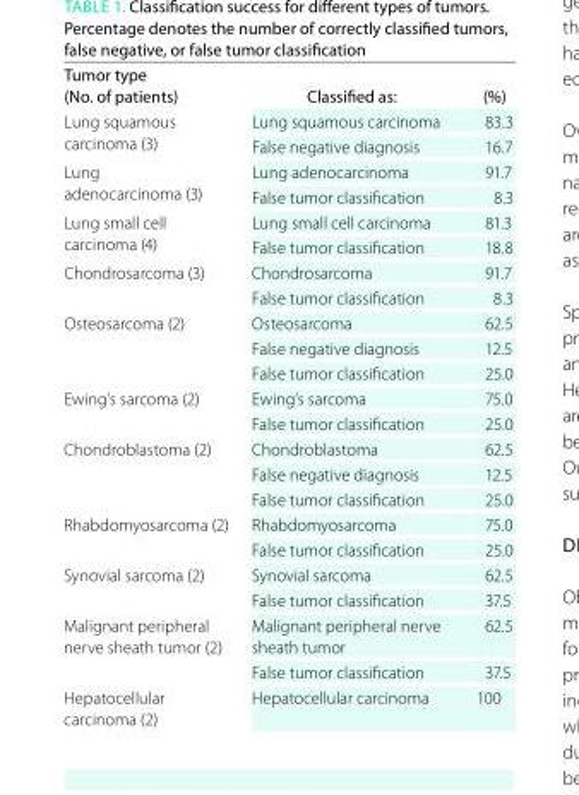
<table><thead><tr><td>tumor type (no. of patients)</td><td>classified as:</td><td>(%)</td></tr></thead><tbody><tr><td rowspan="2">Lung squamous carcinoma (3)</td><td>Lung squamous carcinoma</td><td>83.3</td></tr><tr><td>False negative diagnosis</td><td>16.7</td></tr><tr><td rowspan="2">Lung adenocarcinoma (3)</td><td>Lung adenocarcinoma</td><td>91.7</td></tr><tr><td>False tumor classification</td><td>8.3</td></tr><tr><td rowspan="2">Lung small cell carcinoma (4)</td><td>Lung small cell carcinoma</td><td>81.3</td></tr><tr><td>False tumor classification</td><td>18.8</td></tr><tr><td rowspan="2">Chondrosarcoma (3)</td><td>Chondrosarcoma</td><td>91.7</td></tr><tr><td>False tumor classification</td><td>8.3</td></tr><tr><td rowspan="3">Osteosarcoma (2)</td><td>Osteosarcoma</td><td>62.5</td></tr><tr><td>False negative diagnosis</td><td>12.5</td></tr><tr><td>False tumor classification</td><td>25.0</td></tr><tr><td rowspan="2">Ewing’s sarcoma (2)</td><td>Ewing’s sarcoma</td><td>75.0</td></tr><tr><td>False tumor classification</td><td>25.0</td></tr><tr><td rowspan="3">Chondroblastoma (2)</td><td>Chondroblastoma</td><td>62.5</td></tr><tr><td>False negative diagnosis</td><td>12.5</td></tr><tr><td>False tumor classification</td><td>25.0</td></tr><tr><td rowspan="2">Rhabdomyosarcoma (2)</td><td>Rhabdomyosarcoma</td><td>75.0</td></tr><tr><td>False tumor classification</td><td>25.0</td></tr><tr><td rowspan="2">Synovial sarcoma (2)</td><td>Synovial sarcoma</td><td>62.5</td></tr><tr><td>False tumor classification</td><td>37.5</td></tr><tr><td rowspan="2">Malignant peripheral nerve sheath tumor (2)</td><td>Malignant peripheral nerve sheath tumor</td><td>62.5</td></tr><tr><td>False tumor classification</td><td>37.5</td></tr><tr><td>Hepatocellular carcinoma (2)</td><td>Hepatocellular carcinoma</td><td>100</td></tr></tbody></table>